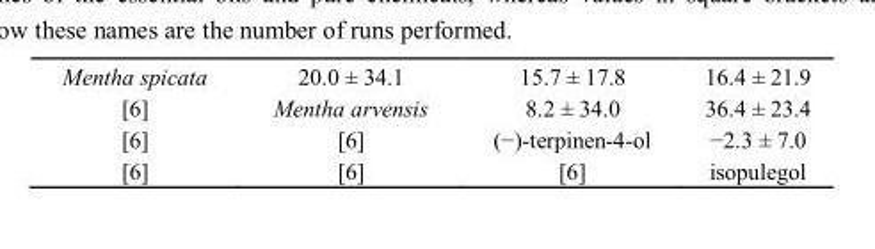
<table><tbody><tr><td>Mentha spicata</td><td>20.0 ± 34.1</td><td>15.7 ± 17.8</td><td>16.4 ± 21.9</td></tr><tr><td>[6]</td><td>Mentha arvensis</td><td>8.2 ± 34.0</td><td>36.4 ± 23.4</td></tr><tr><td>[6]</td><td>[6]</td><td>(−)-terpinen-4-ol</td><td>−2.3 ± 7.0</td></tr><tr><td>[6]</td><td>[6]</td><td>[6]</td><td>isopulegol</td></tr></tbody></table>